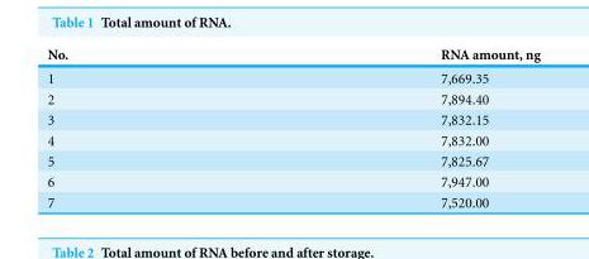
<table><thead><tr><td>No.</td><td>RNA amount, ng</td></tr></thead><tbody><tr><td>1</td><td>7,669.35</td></tr><tr><td>2</td><td>7,894.40</td></tr><tr><td>3</td><td>7,832.15</td></tr><tr><td>4</td><td>7,832.00</td></tr><tr><td>5</td><td>7,825.67</td></tr><tr><td>6</td><td>7,947.00</td></tr><tr><td>7</td><td>7,520.00</td></tr></tbody></table>